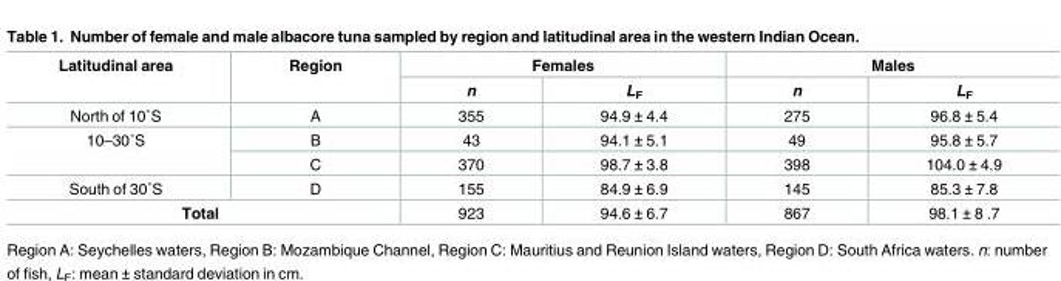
<table><thead><tr><td rowspan="2">Latitudinal area</td><td rowspan="2">Region</td><td colspan="2">Females</td><td colspan="2">Males</td></tr><tr><td>n</td><td>L<sub>F</sub></td><td>n</td><td>L<sub>F</sub></td></tr></thead><tbody><tr><td>North of 10˚S</td><td>A</td><td>355</td><td>94.9 ± 4.4</td><td>275</td><td>96.8 ± 5.4</td></tr><tr><td rowspan="2">10–30˚S</td><td>B</td><td>43</td><td>94.1 ± 5.1</td><td>49</td><td>95.8 ± 5.7</td></tr><tr><td>C</td><td>370</td><td>98.7 ± 3.8</td><td>398</td><td>104.0 ± 4.9</td></tr><tr><td>South of 30˚S</td><td>D</td><td>155</td><td>84.9 ± 6.9</td><td>145</td><td>85.3 ± 7.8</td></tr><tr><td colspan="2">Total</td><td>923</td><td>94.6 ± 6.7</td><td>867</td><td>98.1 ± 8 .7</td></tr></tbody></table>